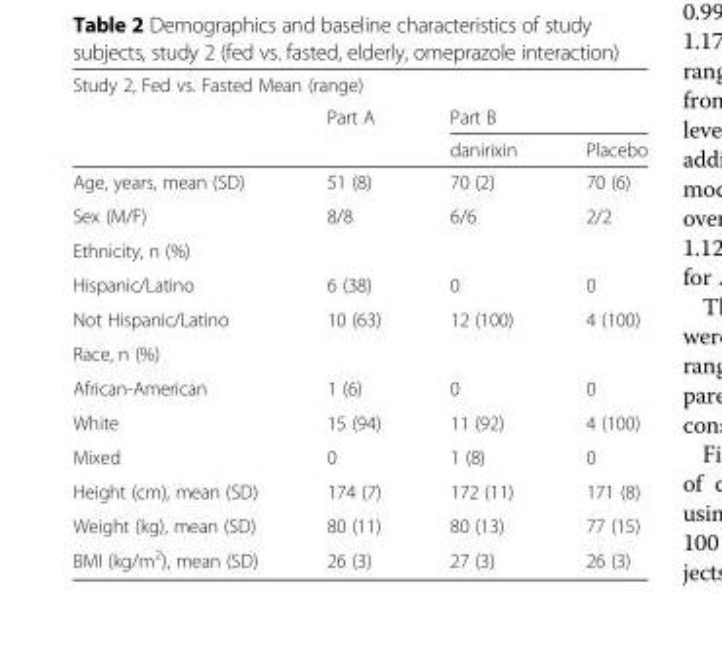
<table><thead><tr><td colspan="4">Study 2, Fed vs. Fasted Mean (range)</td></tr><tr><td rowspan="2"></td><td rowspan="2">Part A</td><td colspan="2">Part B</td></tr><tr><td>danirixin</td><td>Placebo</td></tr></thead><tbody><tr><td>Age, years, mean (SD)</td><td>51 (8)</td><td>70 (2)</td><td>70 (6)</td></tr><tr><td>Sex (M/F)</td><td>8/8</td><td>6/6</td><td>2/2</td></tr><tr><td colspan="4">Ethnicity, n (%)</td></tr><tr><td>Hispanic/Latino</td><td>6 (38)</td><td>0</td><td>0</td></tr><tr><td>Not Hispanic/Latino</td><td>10 (63)</td><td>12 (100)</td><td>4 (100)</td></tr><tr><td colspan="4">Race, n (%)</td></tr><tr><td>African-American</td><td>1 (6)</td><td>0</td><td>0</td></tr><tr><td>White</td><td>15 (94)</td><td>11 (92)</td><td>4 (100)</td></tr><tr><td>Mixed</td><td>0</td><td>1 (8)</td><td>0</td></tr><tr><td>Height (cm), mean (SD)</td><td>174 (7)</td><td>172 (11)</td><td>171 (8)</td></tr><tr><td>Weight (kg), mean (SD)</td><td>80 (11)</td><td>80 (13)</td><td>77 (15)</td></tr><tr><td>BMI (kg/m<sup>2</sup>), mean (SD)</td><td>26 (3)</td><td>27 (3)</td><td>26 (3)</td></tr></tbody></table>